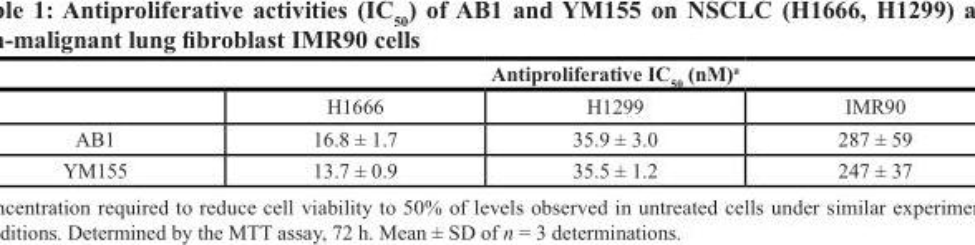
<table><thead><tr><td rowspan="2"></td><td colspan="3">Antiproliferative IC<sub>50</sub> (nM)<sup>a</sup></td></tr><tr><td>H1666</td><td>H1299</td><td>IMR90</td></tr></thead><tbody><tr><td>AB1</td><td>16.8 ± 1.7</td><td>35.9 ± 3.0</td><td>287 ± 59</td></tr><tr><td>YM155</td><td>13.7 ± 0.9</td><td>35.5 ± 1.2</td><td>247 ± 37</td></tr></tbody></table>